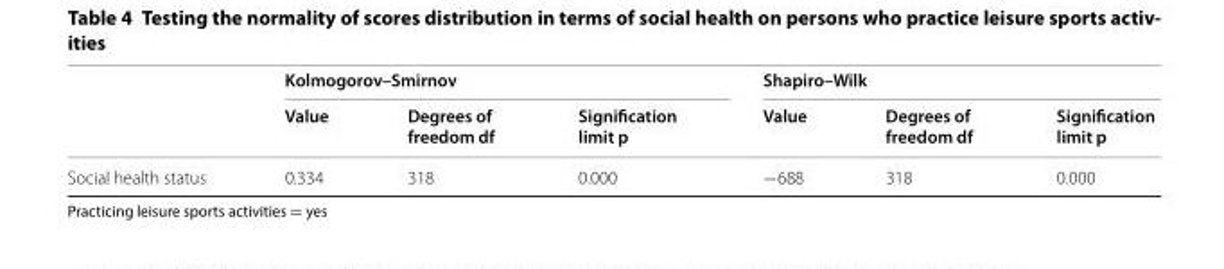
<table><thead><tr><td rowspan="2"></td><td colspan="3">Kolmogorov–Smirnov</td><td colspan="3">Shapiro–Wilk</td></tr><tr><td>Value</td><td>Degrees of freedom df</td><td>Signification limit p</td><td>Value</td><td>Degrees of freedom df</td><td>Signification limit p</td></tr></thead><tbody><tr><td>Social health status</td><td>0.334</td><td>318</td><td>0.000</td><td>−688</td><td>318</td><td>0.000</td></tr></tbody></table>